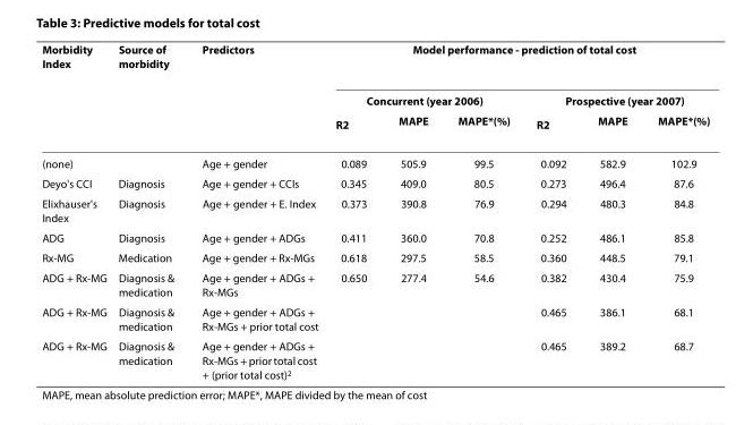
<table><thead><tr><td rowspan="3">Morbidity Index</td><td rowspan="3">Source of morbidity</td><td rowspan="3">Predictors</td><td colspan="6">Model performance - prediction of total cost</td></tr><tr><td colspan="3">Concurrent (year 2006)</td><td colspan="3">Prospective (year 2007)</td></tr><tr><td>R<sup>2</sup></td><td>MAPE</td><td>MAPE*(%)</td><td>R<sup>2</sup></td><td>MAPE</td><td>MAPE*(%)</td></tr></thead><tbody><tr><td>(none)</td><td></td><td>Age + gender</td><td>0.089</td><td>505.9</td><td>99.5</td><td>0.092</td><td>582.9</td><td>102.9</td></tr><tr><td>Deyo&#x27;s CCI</td><td>Diagnosis</td><td>Age + gender + CCIs</td><td>0.345</td><td>409.0</td><td>80.5</td><td>0.273</td><td>496.4</td><td>87.6</td></tr><tr><td>Elixhauser&#x27;s Index</td><td>Diagnosis</td><td>Age + gender + E. Index</td><td>0.373</td><td>390.8</td><td>76.9</td><td>0.294</td><td>480.3</td><td>84.8</td></tr><tr><td>ADG</td><td>Diagnosis</td><td>Age + gender + ADGs</td><td>0.411</td><td>360.0</td><td>70.8</td><td>0.252</td><td>486.1</td><td>85.8</td></tr><tr><td>Rx-MG</td><td>Medication</td><td>Age + gender + Rx-MGs</td><td>0.618</td><td>297.5</td><td>58.5</td><td>0.360</td><td>448.5</td><td>79.1</td></tr><tr><td>ADG + Rx-MG</td><td>Diagnosis &amp; medication</td><td>Age + gender + ADGs + Rx-MGs</td><td>0.650</td><td>277.4</td><td>54.6</td><td>0.382</td><td>430.4</td><td>75.9</td></tr><tr><td>ADG + Rx-MG</td><td>Diagnosis &amp; medication</td><td>Age + gender + ADGs + Rx-MGs + prior total cost</td><td></td><td></td><td></td><td>0.465</td><td>386.1</td><td>68.1</td></tr><tr><td>ADG + Rx-MG</td><td>Diagnosis &amp; medication</td><td>Age + gender + ADGs + Rx-MGs + prior total cost + (prior total cost)<sup>2</sup></td><td></td><td></td><td></td><td>0.465</td><td>389.2</td><td>68.7</td></tr></tbody></table>